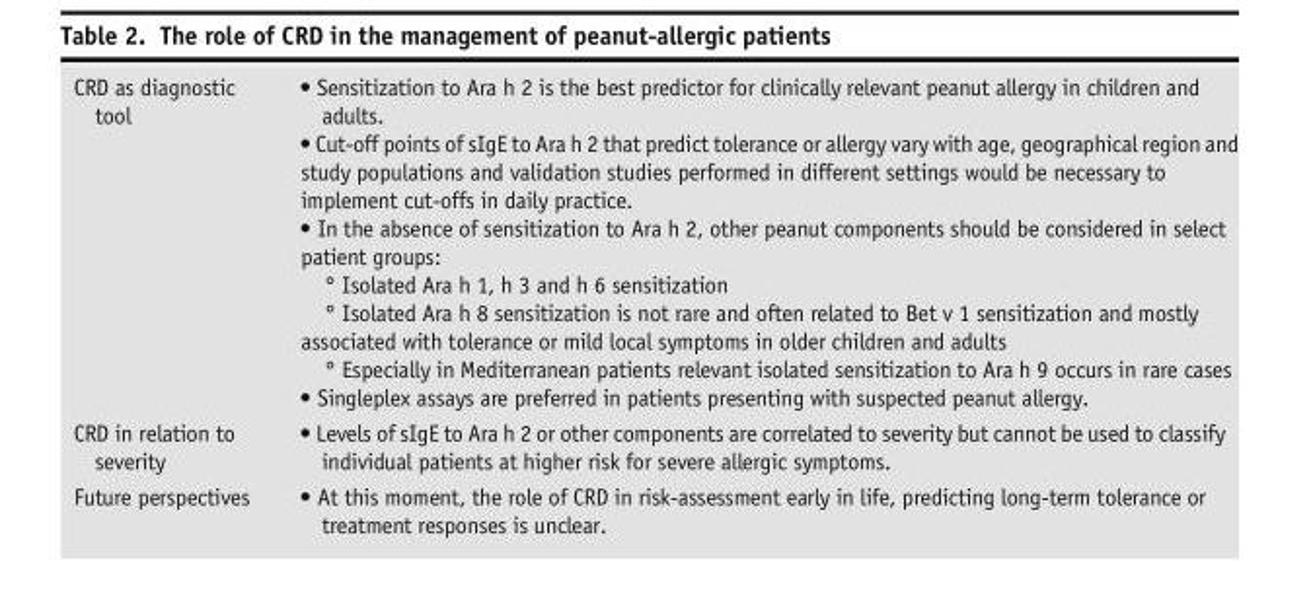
<table><tbody><tr><td>CRD as diagnostic tool</td><td>• Sensitization to Ara h 2 is the best predictor for clinically relevant peanut allergy in children and adults. • Cut-off points of sIgE to Ara h 2 that predict tolerance or allergy vary with age, geographical region and study populations and validation studies performed in different settings would be necessary to implement cut-offs in daily practice. • In the absence of sensitization to Ara h 2, other peanut components should be considered in select patient groups: ° Isolated Ara h 1, h 3 and h 6 sensitization ° Isolated Ara h 8 sensitization is not rare and often related to Bet v 1 sensitization and mostly associated with tolerance or mild local symptoms in older children and adults ° Especially in Mediterranean patients relevant isolated sensitization to Ara h 9 occurs in rare cases • Singleplex assays are preferred in patients presenting with suspected peanut allergy.</td></tr><tr><td>CRD in relation to severity</td><td>• Levels of sIgE to Ara h 2 or other components are correlated to severity but cannot be used to classify individual patients at higher risk for severe allergic symptoms.</td></tr><tr><td>Future perspectives</td><td>• At this moment, the role of CRD in risk-assessment early in life, predicting long-term tolerance or treatment responses is unclear.</td></tr></tbody></table>